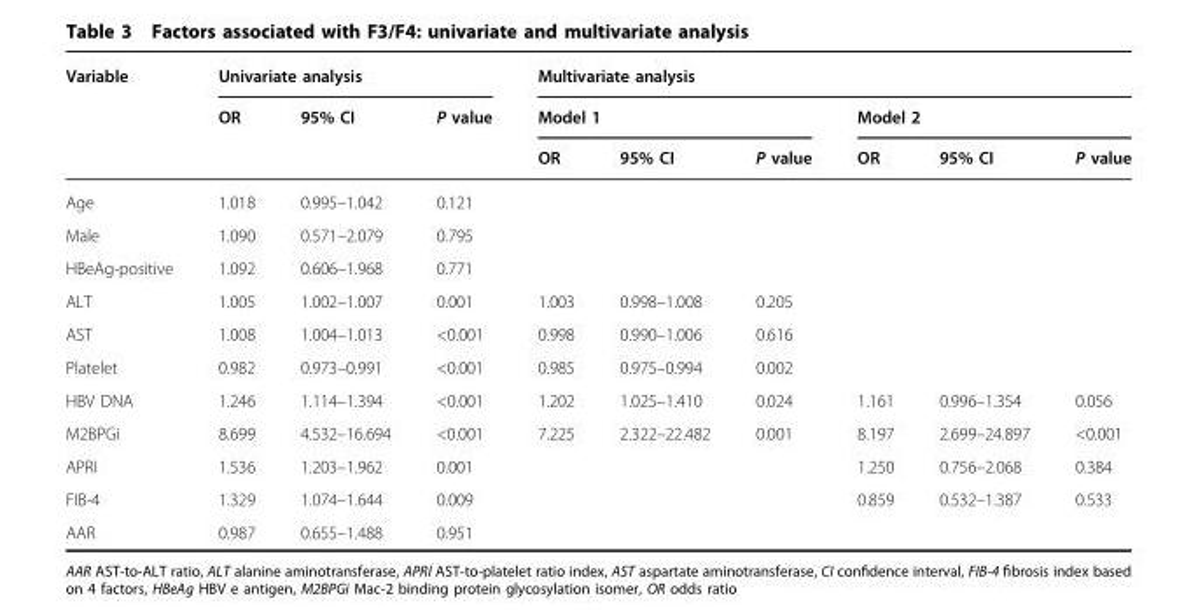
<table><thead><tr><td rowspan="3">Variable</td><td colspan="3">Univariate analysis</td><td colspan="6">Multivariate analysis</td></tr><tr><td rowspan="2">OR</td><td rowspan="2">95% CI</td><td rowspan="2">P value</td><td colspan="3">Model 1</td><td colspan="3">Model 2</td></tr><tr><td>OR</td><td>95% CI</td><td>P value</td><td>OR</td><td>95% CI</td><td>P value</td></tr></thead><tbody><tr><td>Age</td><td>1.018</td><td>0.995–1.042</td><td>0.121</td><td></td><td></td><td></td><td></td><td></td><td></td></tr><tr><td>Male</td><td>1.090</td><td>0.571–2.079</td><td>0.795</td><td></td><td></td><td></td><td></td><td></td><td></td></tr><tr><td>HBeAg-positive</td><td>1.092</td><td>0.606–1.968</td><td>0.771</td><td></td><td></td><td></td><td></td><td></td><td></td></tr><tr><td>ALT</td><td>1.005</td><td>1.002–1.007</td><td>0.001</td><td>1.003</td><td>0.998–1.008</td><td>0.205</td><td></td><td></td><td></td></tr><tr><td>AST</td><td>1.008</td><td>1.004–1.013</td><td>&lt;0.001</td><td>0.998</td><td>0.990–1.006</td><td>0.616</td><td></td><td></td><td></td></tr><tr><td>Platelet</td><td>0.982</td><td>0.973–0.991</td><td>&lt;0.001</td><td>0.985</td><td>0.975–0.994</td><td>0.002</td><td></td><td></td><td></td></tr><tr><td>HBV DNA</td><td>1.246</td><td>1.114–1.394</td><td>&lt;0.001</td><td>1.202</td><td>1.025–1.410</td><td>0.024</td><td>1.161</td><td>0.996–1.354</td><td>0.056</td></tr><tr><td>M2BPGi</td><td>8.699</td><td>4.532–16.694</td><td>&lt;0.001</td><td>7.225</td><td>2.322–22.482</td><td>0.001</td><td>8.197</td><td>2.699–24.897</td><td>&lt;0.001</td></tr><tr><td>APRI</td><td>1.536</td><td>1.203–1.962</td><td>0.001</td><td></td><td></td><td></td><td>1.250</td><td>0.756–2.068</td><td>0.384</td></tr><tr><td>FIB-4</td><td>1.329</td><td>1.074–1.644</td><td>0.009</td><td></td><td></td><td></td><td>0.859</td><td>0.532–1.387</td><td>0.533</td></tr><tr><td>AAR</td><td>0.987</td><td>0.655–1.488</td><td>0.951</td><td></td><td></td><td></td><td></td><td></td><td></td></tr></tbody></table>